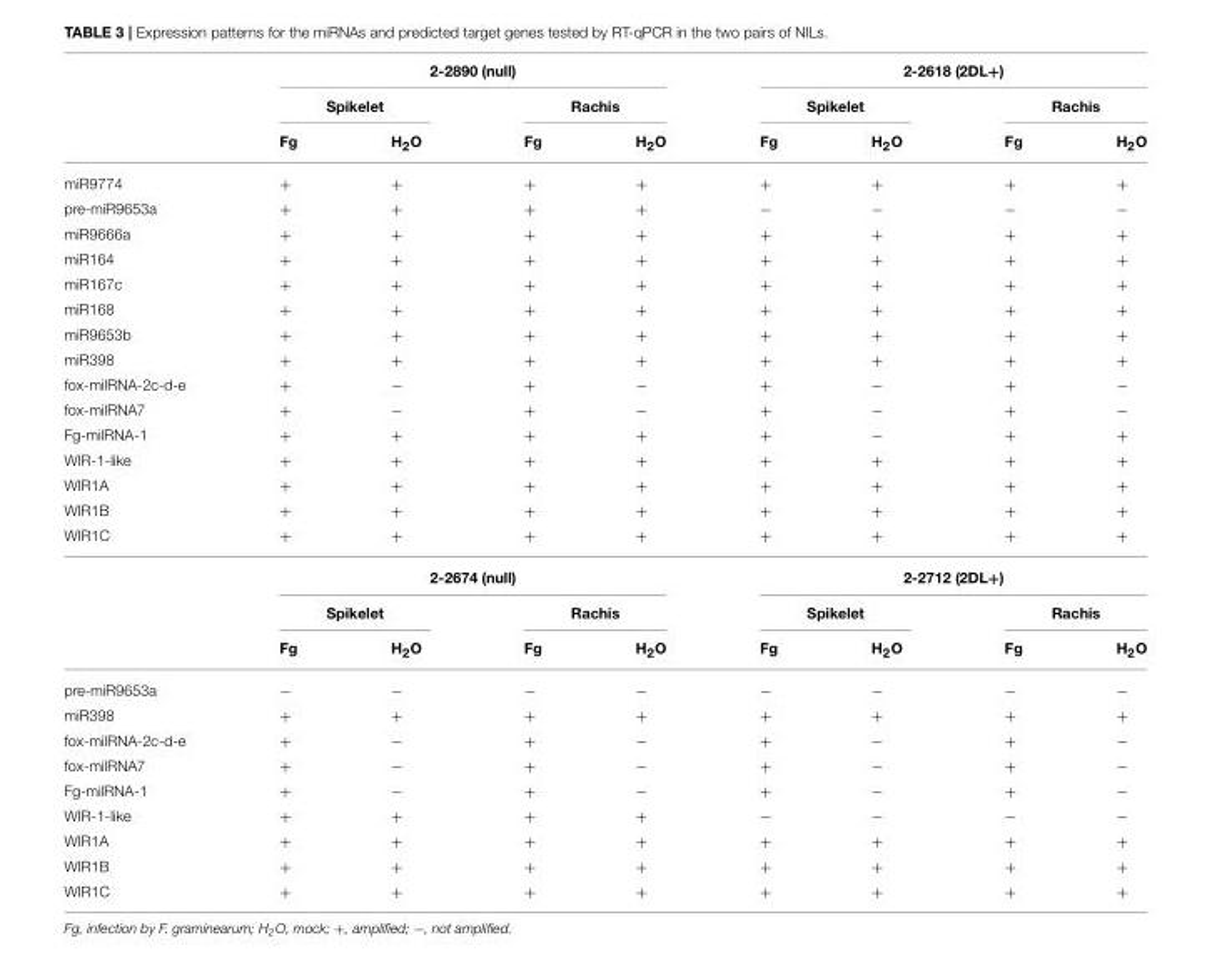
<table><thead><tr><td rowspan="3"></td><td colspan="4">2-2890 (null)</td><td colspan="4">2-2618 (2DL+)</td></tr><tr><td colspan="2">Spikelet</td><td colspan="2">Rachis</td><td colspan="2">Spikelet</td><td colspan="2">Rachis</td></tr><tr><td>Fg</td><td>H<sub>2</sub>O</td><td>Fg</td><td>H<sub>2</sub>O</td><td>Fg</td><td>H<sub>2</sub>O</td><td>Fg</td><td>H<sub>2</sub>O</td></tr></thead><tbody><tr><td>miR9774</td><td>+</td><td>+</td><td>+</td><td>+</td><td>+</td><td>+</td><td>+</td><td>+</td></tr><tr><td>pre-miR9653a</td><td>+</td><td>+</td><td>+</td><td>+</td><td>−</td><td>−</td><td>−</td><td>−</td></tr><tr><td>miR9666a</td><td>+</td><td>+</td><td>+</td><td>+</td><td>+</td><td>+</td><td>+</td><td>+</td></tr><tr><td>miR164</td><td>+</td><td>+</td><td>+</td><td>+</td><td>+</td><td>+</td><td>+</td><td>+</td></tr><tr><td>miR167c</td><td>+</td><td>+</td><td>+</td><td>+</td><td>+</td><td>+</td><td>+</td><td>+</td></tr><tr><td>miR168</td><td>+</td><td>+</td><td>+</td><td>+</td><td>+</td><td>+</td><td>+</td><td>+</td></tr><tr><td>miR9653b</td><td>+</td><td>+</td><td>+</td><td>+</td><td>+</td><td>+</td><td>+</td><td>+</td></tr><tr><td>miR398</td><td>+</td><td>+</td><td>+</td><td>+</td><td>+</td><td>+</td><td>+</td><td>+</td></tr><tr><td>fox-milRNA-2c-d-e</td><td>+</td><td>−</td><td>+</td><td>−</td><td>+</td><td>−</td><td>+</td><td>−</td></tr><tr><td>fox-milRNA7</td><td>+</td><td>−</td><td>+</td><td>−</td><td>+</td><td>−</td><td>+</td><td>−</td></tr><tr><td>Fg-milRNA-1</td><td>+</td><td>+</td><td>+</td><td>+</td><td>+</td><td>−</td><td>+</td><td>+</td></tr><tr><td>WIR-1-like</td><td>+</td><td>+</td><td>+</td><td>+</td><td>+</td><td>+</td><td>+</td><td>+</td></tr><tr><td>WIR1A</td><td>+</td><td>+</td><td>+</td><td>+</td><td>+</td><td>+</td><td>+</td><td>+</td></tr><tr><td>WIR1B</td><td>+</td><td>+</td><td>+</td><td>+</td><td>+</td><td>+</td><td>+</td><td>+</td></tr><tr><td rowspan="4">WIR1C</td><td>+</td><td>+</td><td>+</td><td>+</td><td>+</td><td>+</td><td>+</td><td>+</td></tr><tr><td colspan="4">2-2674 (null)</td><td colspan="4">2-2712 (2DL+)</td></tr><tr><td colspan="2">Spikelet</td><td colspan="2">Rachis</td><td colspan="2">Spikelet</td><td colspan="2">Rachis</td></tr><tr><td>Fg</td><td>H<sub>2</sub>O</td><td>Fg</td><td>H<sub>2</sub>O</td><td>Fg</td><td>H<sub>2</sub>O</td><td>Fg</td><td>H<sub>2</sub>O</td></tr><tr><td>pre-miR9653a</td><td>−</td><td>−</td><td>−</td><td>−</td><td>−</td><td>−</td><td>−</td><td>−</td></tr><tr><td>miR398</td><td>+</td><td>+</td><td>+</td><td>+</td><td>+</td><td>+</td><td>+</td><td>+</td></tr><tr><td>fox-milRNA-2c-d-e</td><td>+</td><td>−</td><td>+</td><td>−</td><td>+</td><td>−</td><td>+</td><td>−</td></tr><tr><td>fox-milRNA7</td><td>+</td><td>−</td><td>+</td><td>−</td><td>+</td><td>−</td><td>+</td><td>−</td></tr><tr><td>Fg-milRNA-1</td><td>+</td><td>−</td><td>+</td><td>−</td><td>+</td><td>−</td><td>+</td><td>−</td></tr><tr><td>WIR-1-like</td><td>+</td><td>+</td><td>+</td><td>+</td><td>−</td><td>−</td><td>−</td><td>−</td></tr><tr><td>WIR1A</td><td>+</td><td>+</td><td>+</td><td>+</td><td>+</td><td>+</td><td>+</td><td>+</td></tr><tr><td>WIR1B</td><td>+</td><td>+</td><td>+</td><td>+</td><td>+</td><td>+</td><td>+</td><td>+</td></tr><tr><td>WIR1C</td><td>+</td><td>+</td><td>+</td><td>+</td><td>+</td><td>+</td><td>+</td><td>+</td></tr></tbody></table>